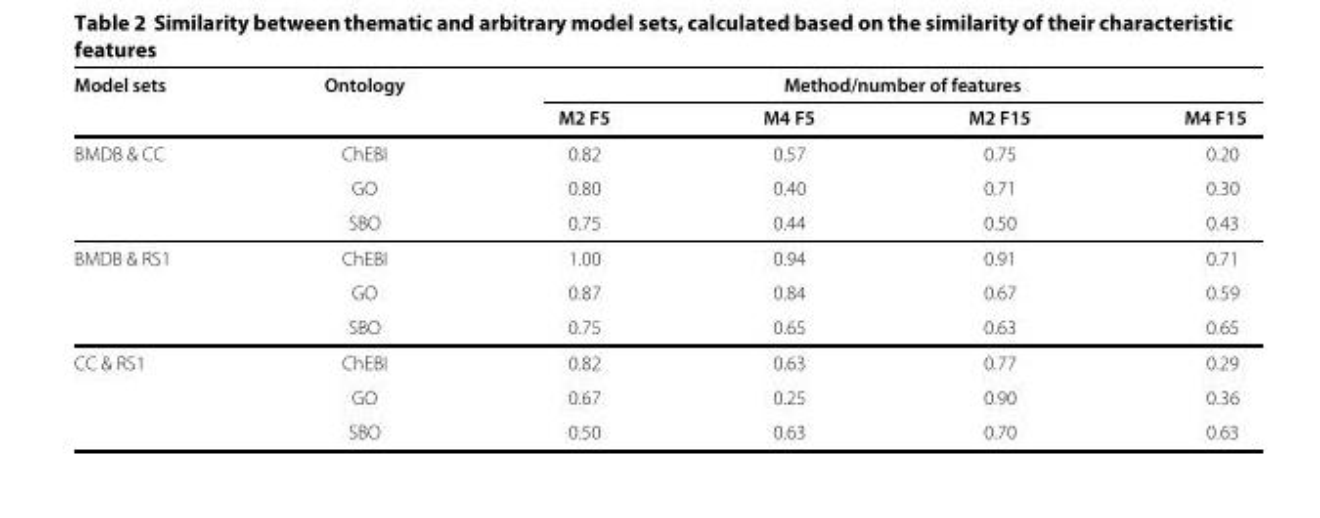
<table><thead><tr><td rowspan="2">Model sets</td><td rowspan="2">Ontology</td><td colspan="4">Method/number of features</td></tr><tr><td>M2 F5</td><td>M4 F5</td><td>M2 F15</td><td>M4 F15</td></tr></thead><tbody><tr><td rowspan="3">BMDB &amp; CC</td><td>ChEBI</td><td>0.82</td><td>0.57</td><td>0.75</td><td>0.20</td></tr><tr><td>GO</td><td>0.80</td><td>0.40</td><td>0.71</td><td>0.30</td></tr><tr><td>SBO</td><td>0.75</td><td>0.44</td><td>0.50</td><td>0.43</td></tr><tr><td rowspan="3">BMDB &amp; RS1</td><td>ChEBI</td><td>1.00</td><td>0.94</td><td>0.91</td><td>0.71</td></tr><tr><td>GO</td><td>0.87</td><td>0.84</td><td>0.67</td><td>0.59</td></tr><tr><td>SBO</td><td>0.75</td><td>0.65</td><td>0.63</td><td>0.65</td></tr><tr><td rowspan="3">CC &amp; RS1</td><td>ChEBI</td><td>0.82</td><td>0.63</td><td>0.77</td><td>0.29</td></tr><tr><td>GO</td><td>0.67</td><td>0.25</td><td>0.90</td><td>0.36</td></tr><tr><td>SBO</td><td>0.50</td><td>0.63</td><td>0.70</td><td>0.63</td></tr></tbody></table>